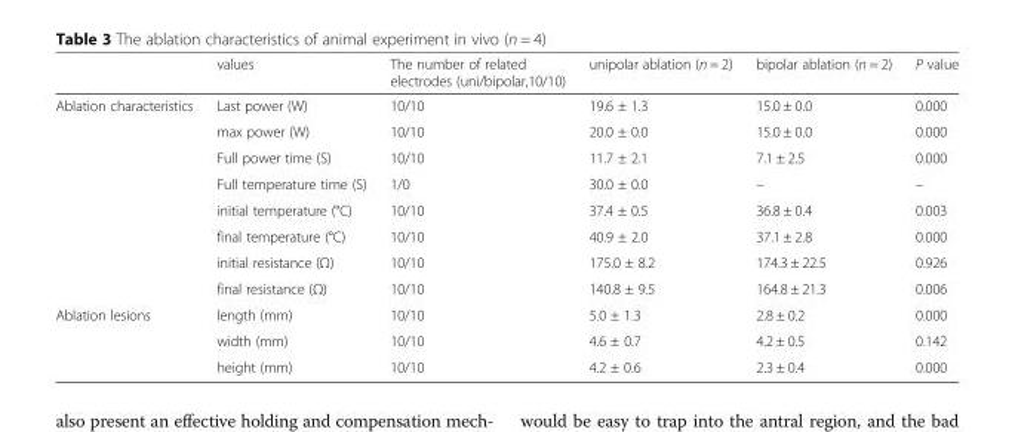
<table><thead><tr><td></td><td>values</td><td>The number of related electrodes (uni/bipolar,10/10)</td><td>unipolar ablation (n = 2)</td><td>bipolar ablation (n = 2)</td><td>P value</td></tr></thead><tbody><tr><td rowspan="8">Ablation characteristics</td><td>Last power (W)</td><td>10/10</td><td>19.6 ± 1.3</td><td>15.0 ± 0.0</td><td>0.000</td></tr><tr><td>max power (W)</td><td>10/10</td><td>20.0 ± 0.0</td><td>15.0 ± 0.0</td><td>0.000</td></tr><tr><td>Full power time (S)</td><td>10/10</td><td>11.7 ± 2.1</td><td>7.1 ± 2.5</td><td>0.000</td></tr><tr><td>Full temperature time (S)</td><td>1/0</td><td>30.0 ± 0.0</td><td>–</td><td>–</td></tr><tr><td>initial temperature (°C)</td><td>10/10</td><td>37.4 ± 0.5</td><td>36.8 ± 0.4</td><td>0.003</td></tr><tr><td>final temperature (°C)</td><td>10/10</td><td>40.9 ± 2.0</td><td>37.1 ± 2.8</td><td>0.000</td></tr><tr><td>initial resistance (Ω)</td><td>10/10</td><td>175.0 ± 8.2</td><td>174.3 ± 22.5</td><td>0.926</td></tr><tr><td>final resistance (Ω)</td><td>10/10</td><td>140.8 ± 9.5</td><td>164.8 ± 21.3</td><td>0.006</td></tr><tr><td rowspan="3">Ablation lesions</td><td>length (mm)</td><td>10/10</td><td>5.0 ± 1.3</td><td>2.8 ± 0.2</td><td>0.000</td></tr><tr><td>width (mm)</td><td>10/10</td><td>4.6 ± 0.7</td><td>4.2 ± 0.5</td><td>0.142</td></tr><tr><td>height (mm)</td><td>10/10</td><td>4.2 ± 0.6</td><td>2.3 ± 0.4</td><td>0.000</td></tr></tbody></table>